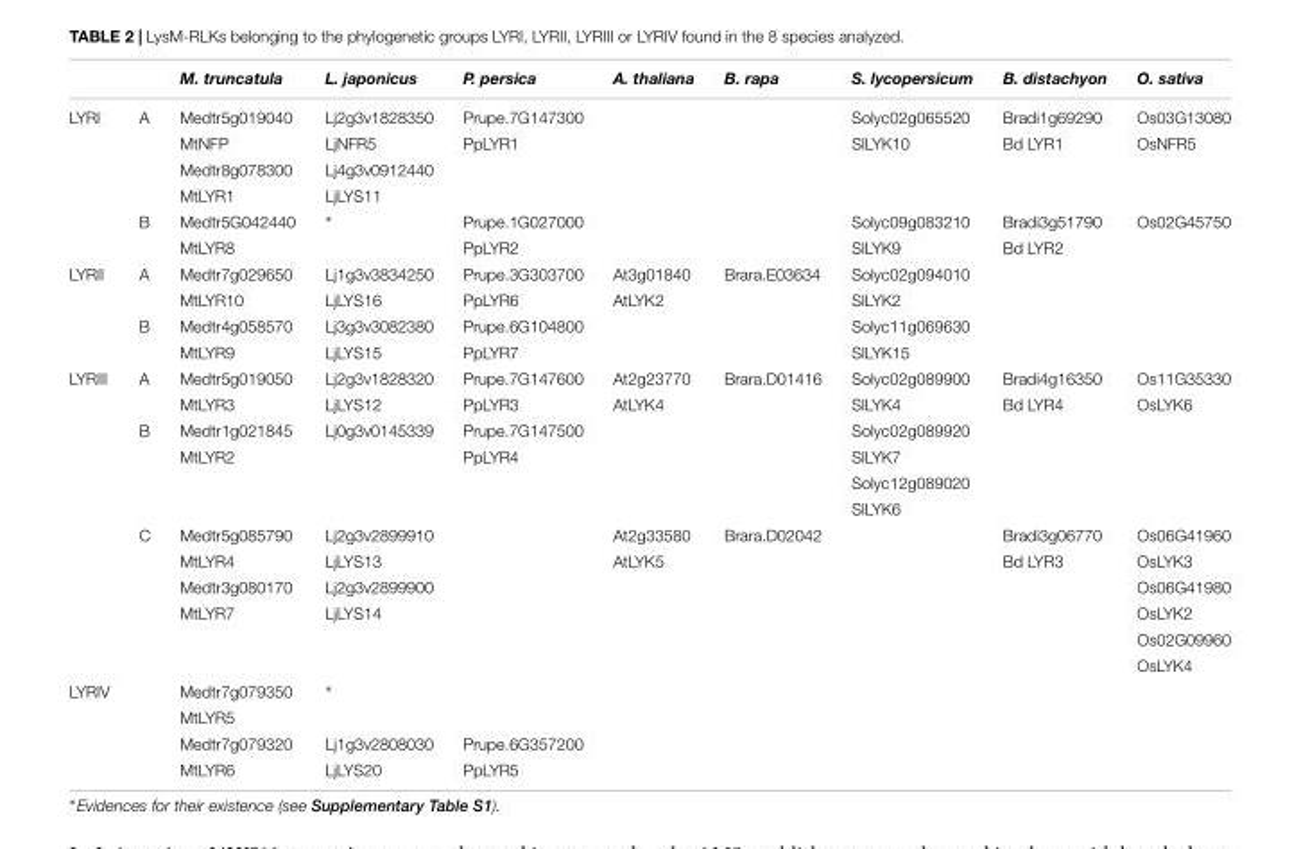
<table><thead><tr><td></td><td></td><td>M. truncatula</td><td>L. japonicus</td><td>P. persica</td><td>A. thaliana</td><td>B. rapa</td><td>S. lycopersicum</td><td>B. distachyon</td><td>O. sativa</td></tr></thead><tbody><tr><td rowspan="6">LYRI</td><td>A</td><td>Medtr5g019040</td><td>Lj2g3v1828350</td><td>Prupe.7G147300</td><td></td><td></td><td>Solyc02g065520</td><td>Bradi1g69290</td><td>Os03G13080</td></tr><tr><td></td><td>MtNFP</td><td>LjNFR5</td><td>PpLYR1</td><td></td><td></td><td>SlLYK10</td><td>Bd LYR1</td><td>OsNFR5</td></tr><tr><td></td><td>Medtr8g078300</td><td>Lj4g3v0912440</td><td></td><td></td><td></td><td></td><td></td><td></td></tr><tr><td></td><td>MtLYR1</td><td>LjLYS11</td><td></td><td></td><td></td><td></td><td></td><td></td></tr><tr><td>B</td><td>Medtr5G042440</td><td>∗</td><td>Prupe.1G027000</td><td></td><td></td><td>Solyc09g083210</td><td>Bradi3g51790</td><td>Os02G45750</td></tr><tr><td></td><td>MtLYR8</td><td></td><td>PpLYR2</td><td></td><td></td><td>SlLYK9</td><td>Bd LYR2</td><td></td></tr><tr><td rowspan="4">LYRII</td><td>A</td><td>Medtr7g029650</td><td>Lj1g3v3834250</td><td>Prupe.3G303700</td><td>At3g01840</td><td>Brara.E03634</td><td>Solyc02g094010</td><td></td><td></td></tr><tr><td></td><td>MtLYR10</td><td>LjLYS16</td><td>PpLYR6</td><td>AtLYK2</td><td></td><td>SlLYK2</td><td></td><td></td></tr><tr><td>B</td><td>Medtr4g058570</td><td>Lj3g3v3082380</td><td>Prupe.6G104800</td><td></td><td></td><td>Solyc11g069630</td><td></td><td></td></tr><tr><td></td><td>MtLYR9</td><td>LjLYS15</td><td>PpLYR7</td><td></td><td></td><td>SlLYK15</td><td></td><td></td></tr><tr><td rowspan="12">LYRIII</td><td>A</td><td>Medtr5g019050</td><td>Lj2g3v1828320</td><td>Prupe.7G147600</td><td>At2g23770</td><td>Brara.D01416</td><td>Solyc02g089900</td><td>Bradi4g16350</td><td>Os11G35330</td></tr><tr><td></td><td>MtLYR3</td><td>LjLYS12</td><td>PpLYR3</td><td>AtLYK4</td><td></td><td>SlLYK4</td><td>Bd LYR4</td><td>OsLYK6</td></tr><tr><td>B</td><td>Medtr1g021845</td><td>Lj0g3v0145339</td><td>Prupe.7G147500</td><td></td><td></td><td>Solyc02g089920</td><td></td><td></td></tr><tr><td></td><td>MtLYR2</td><td></td><td>PpLYR4</td><td></td><td></td><td>SlLYK7</td><td></td><td></td></tr><tr><td></td><td></td><td></td><td></td><td></td><td></td><td>Solyc12g089020</td><td></td><td></td></tr><tr><td></td><td></td><td></td><td></td><td></td><td></td><td>SlLYK6</td><td></td><td></td></tr><tr><td>C</td><td>Medtr5g085790</td><td>Lj2g3v2899910</td><td></td><td>At2g33580</td><td>Brara.D02042</td><td></td><td>Bradi3g06770</td><td>Os06G41960</td></tr><tr><td></td><td>MtLYR4</td><td>LjLYS13</td><td></td><td>AtLYK5</td><td></td><td></td><td>Bd LYR3</td><td>OsLYK3</td></tr><tr><td></td><td>Medtr3g080170</td><td>Lj2g3v2899900</td><td></td><td></td><td></td><td></td><td></td><td>Os06G41980</td></tr><tr><td></td><td>MtLYR7</td><td>LjLYS14</td><td></td><td></td><td></td><td></td><td></td><td>OsLYK2</td></tr><tr><td></td><td></td><td></td><td></td><td></td><td></td><td></td><td></td><td>Os02G09960</td></tr><tr><td></td><td></td><td></td><td></td><td></td><td></td><td></td><td></td><td>OsLYK4</td></tr><tr><td rowspan="4">LYRIV</td><td></td><td>Medtr7g079350</td><td>∗</td><td></td><td></td><td></td><td></td><td></td><td></td></tr><tr><td></td><td>MtLYR5</td><td></td><td></td><td></td><td></td><td></td><td></td><td></td></tr><tr><td></td><td>Medtr7g079320</td><td>Lj1g3v2808030</td><td>Prupe.6G357200</td><td></td><td></td><td></td><td></td><td></td></tr><tr><td></td><td>MtLYR6</td><td>LjLYS20</td><td>PpLYR5</td><td></td><td></td><td></td><td></td><td></td></tr></tbody></table>